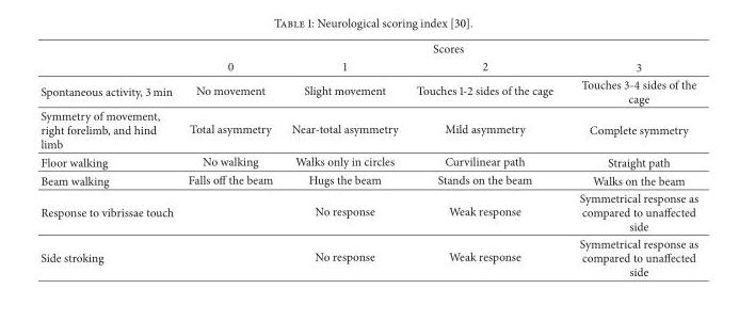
<table><thead><tr><td rowspan="2"></td><td colspan="4">Scores</td></tr><tr><td>0</td><td>1</td><td>2</td><td>3</td></tr></thead><tbody><tr><td>Spontaneous activity, 3 min</td><td>No movement</td><td>Slight movement</td><td>Touches 1-2 sides of the cage</td><td>Touches 3-4 sides of the cage</td></tr><tr><td>Symmetry of movement, right forelimb, and hind limb</td><td>Total asymmetry</td><td>Near-total asymmetry</td><td>Mild asymmetry</td><td>Complete symmetry</td></tr><tr><td>Floor walking</td><td>No walking</td><td>Walks only in circles</td><td>Curvilinear path</td><td>Straight path</td></tr><tr><td>Beam walking</td><td>Falls off the beam</td><td>Hugs the beam</td><td>Stands on the beam</td><td>Walks on the beam</td></tr><tr><td>Response to vibrissae touch</td><td></td><td>No response</td><td>Weak response</td><td>Symmetrical response as compared to unaffected side</td></tr><tr><td>Side stroking</td><td></td><td>No response</td><td>Weak response</td><td>Symmetrical response as compared to unaffected side</td></tr></tbody></table>